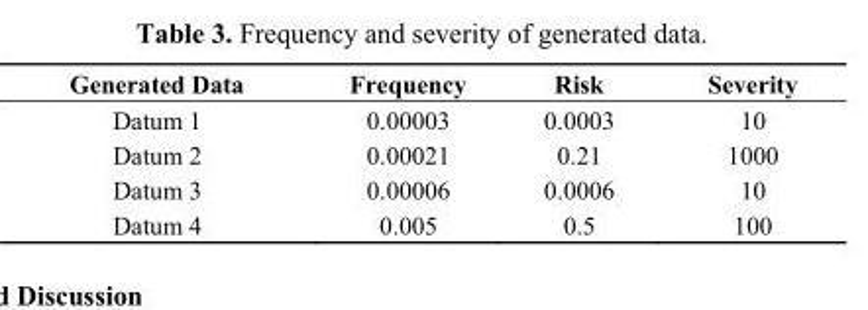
<table><thead><tr><td>Generated Data</td><td>Frequency</td><td>Risk</td><td>Severity</td></tr></thead><tbody><tr><td>Datum 1</td><td>0.00003</td><td>0.0003</td><td>10</td></tr><tr><td>Datum 2</td><td>0.00021</td><td>0.21</td><td>1000</td></tr><tr><td>Datum 3</td><td>0.00006</td><td>0.0006</td><td>10</td></tr><tr><td>Datum 4</td><td>0.005</td><td>0.5</td><td>100</td></tr></tbody></table>